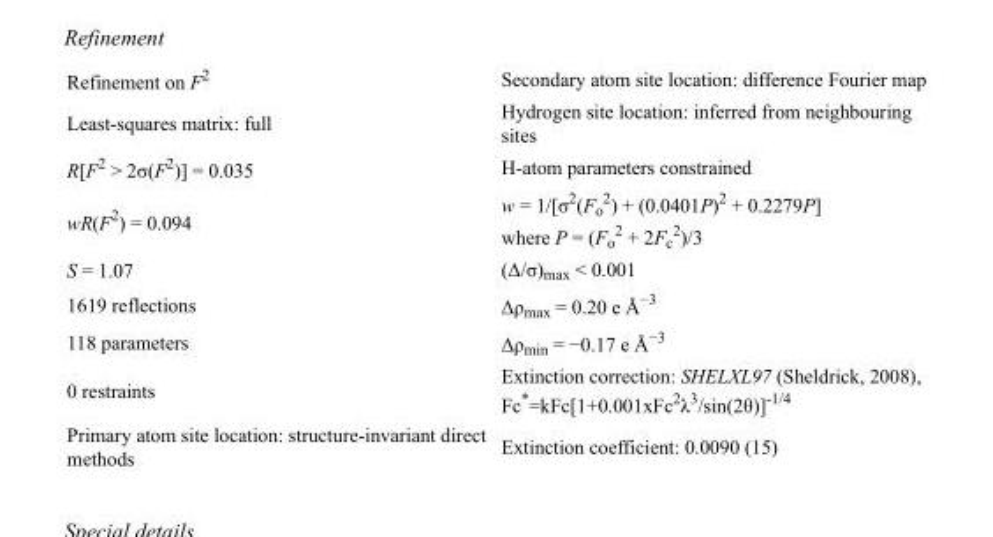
<table><tbody><tr><td>Refinement on F<sup>2</sup></td><td>Secondary atom site location: difference Fourier map</td></tr><tr><td>Least-squares matrix: full</td><td>Hydrogen site location: inferred from neighbouring sites</td></tr><tr><td>R[F<sup>2</sup> &gt; 2σ(F<sup>2</sup>)] = 0.035</td><td>H-atom parameters constrained</td></tr><tr><td>wR(F<sup>2</sup>) = 0.094</td><td>w = 1/[σ<sup>2</sup>(F<sub>o</sub> <sup>2</sup>) + (0.0401P)<sup>2</sup> + 0.2279P] where P = (F<sub>o</sub> <sup>2</sup> + 2F<sub>c</sub> <sup>2</sup>)/3</td></tr><tr><td>S = 1.07</td><td>(Δ/σ)<sub>max</sub> &lt; 0.001</td></tr><tr><td>1619 reflections</td><td>Δρ<sub>max</sub> = 0.20 e Å<sup>−3</sup></td></tr><tr><td>118 parameters</td><td>Δρ<sub>min</sub> = −0.17 e Å<sup>−3</sup></td></tr><tr><td>0 restraints</td><td>Extinction correction: SHELXL97 (Sheldrick, 2008), Fc*=kFc[1+0.001xFc<sup>2</sup>λ<sup>3</sup>/sin(2θ)]<sup>-1/4</sup></td></tr><tr><td>Primary atom site location: structure-invariant direct methods</td><td>Extinction coefficient: 0.0090 (15)</td></tr></tbody></table>